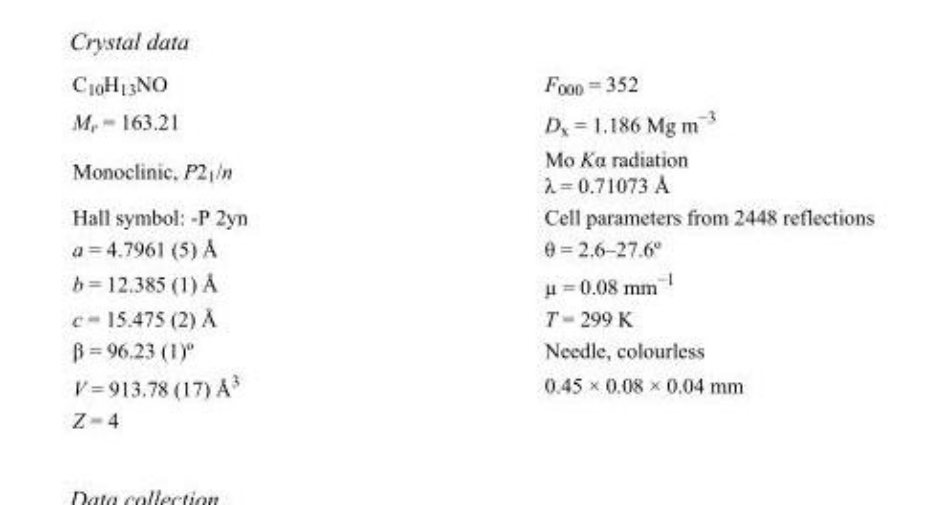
<table><tbody><tr><td>C<sub>10</sub>H<sub>13</sub>NO</td><td>F000 = 352</td></tr><tr><td>M<sub>r</sub> = 163.21</td><td>D<sub>x</sub> = 1.186 Mg m<sup>−3</sup></td></tr><tr><td>Monoclinic, P2<sub>1</sub>/n</td><td>Mo Kα radiation λ = 0.71073 Å</td></tr><tr><td>Hall symbol: -P 2yn</td><td>Cell parameters from 2448 reflections</td></tr><tr><td>a = 4.7961 (5) Å</td><td>θ = 2.6–27.6º</td></tr><tr><td>b = 12.385 (1) Å</td><td>µ = 0.08 mm<sup>−1</sup></td></tr><tr><td>c = 15.475 (2) Å</td><td>T = 299 K</td></tr><tr><td>β = 96.23 (1)º</td><td>Needle, colourless</td></tr><tr><td>V = 913.78 (17) Å<sup>3</sup></td><td>0.45 × 0.08 × 0.04 mm</td></tr><tr><td>Z = 4</td><td></td></tr></tbody></table>